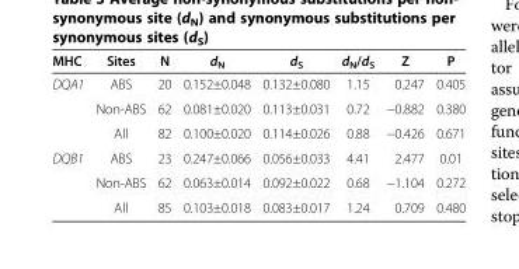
<table><thead><tr><td>MHC</td><td>Sites</td><td>N</td><td>d<sub>N</sub></td><td>d<sub>S</sub></td><td>d<sub>N</sub>/d<sub>S</sub></td><td>Z</td><td>P</td></tr></thead><tbody><tr><td rowspan="3">DQA1</td><td>ABS</td><td>20</td><td>0.152±0.048</td><td>0.132±0.080</td><td>1.15</td><td>0.247</td><td>0.405</td></tr><tr><td>Non-ABS</td><td>62</td><td>0.081±0.020</td><td>0.113±0.031</td><td>0.72</td><td>−0.882</td><td>0.380</td></tr><tr><td>All</td><td>82</td><td>0.100±0.020</td><td>0.114±0.026</td><td>0.88</td><td>−0.426</td><td>0.671</td></tr><tr><td rowspan="3">DQB1</td><td>ABS</td><td>23</td><td>0.247±0.066</td><td>0.056±0.033</td><td>4.41</td><td>2.477</td><td>0.01</td></tr><tr><td>Non-ABS</td><td>62</td><td>0.063±0.014</td><td>0.092±0.022</td><td>0.68</td><td>−1.104</td><td>0.272</td></tr><tr><td>All</td><td>85</td><td>0.103±0.018</td><td>0.083±0.017</td><td>1.24</td><td>0.709</td><td>0.480</td></tr></tbody></table>